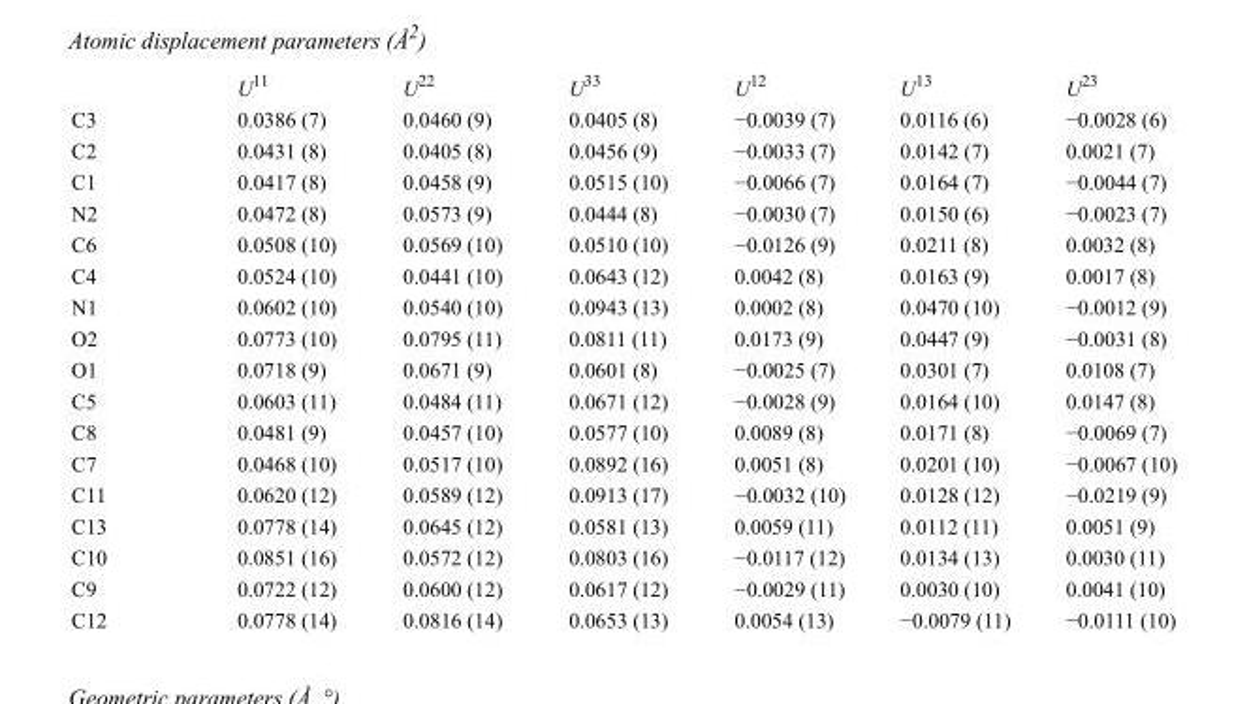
<table><thead><tr><td></td><td>U<sup>11</sup></td><td>U<sup>22</sup></td><td>U<sup>33</sup></td><td>U<sup>12</sup></td><td>U<sup>13</sup></td><td>U<sup>23</sup></td></tr></thead><tbody><tr><td>C3</td><td>0.0386 (7)</td><td>0.0460 (9)</td><td>0.0405 (8)</td><td>−0.0039 (7)</td><td>0.0116 (6)</td><td>−0.0028 (6)</td></tr><tr><td>C2</td><td>0.0431 (8)</td><td>0.0405 (8)</td><td>0.0456 (9)</td><td>−0.0033 (7)</td><td>0.0142 (7)</td><td>0.0021 (7)</td></tr><tr><td>C1</td><td>0.0417 (8)</td><td>0.0458 (9)</td><td>0.0515 (10)</td><td>−0.0066 (7)</td><td>0.0164 (7)</td><td>−0.0044 (7)</td></tr><tr><td>N2</td><td>0.0472 (8)</td><td>0.0573 (9)</td><td>0.0444 (8)</td><td>−0.0030 (7)</td><td>0.0150 (6)</td><td>−0.0023 (7)</td></tr><tr><td>C6</td><td>0.0508 (10)</td><td>0.0569 (10)</td><td>0.0510 (10)</td><td>−0.0126 (9)</td><td>0.0211 (8)</td><td>0.0032 (8)</td></tr><tr><td>C4</td><td>0.0524 (10)</td><td>0.0441 (10)</td><td>0.0643 (12)</td><td>0.0042 (8)</td><td>0.0163 (9)</td><td>0.0017 (8)</td></tr><tr><td>N1</td><td>0.0602 (10)</td><td>0.0540 (10)</td><td>0.0943 (13)</td><td>0.0002 (8)</td><td>0.0470 (10)</td><td>−0.0012 (9)</td></tr><tr><td>O2</td><td>0.0773 (10)</td><td>0.0795 (11)</td><td>0.0811 (11)</td><td>0.0173 (9)</td><td>0.0447 (9)</td><td>−0.0031 (8)</td></tr><tr><td>O1</td><td>0.0718 (9)</td><td>0.0671 (9)</td><td>0.0601 (8)</td><td>−0.0025 (7)</td><td>0.0301 (7)</td><td>0.0108 (7)</td></tr><tr><td>C5</td><td>0.0603 (11)</td><td>0.0484 (11)</td><td>0.0671 (12)</td><td>−0.0028 (9)</td><td>0.0164 (10)</td><td>0.0147 (8)</td></tr><tr><td>C8</td><td>0.0481 (9)</td><td>0.0457 (10)</td><td>0.0577 (10)</td><td>0.0089 (8)</td><td>0.0171 (8)</td><td>−0.0069 (7)</td></tr><tr><td>C7</td><td>0.0468 (10)</td><td>0.0517 (10)</td><td>0.0892 (16)</td><td>0.0051 (8)</td><td>0.0201 (10)</td><td>−0.0067 (10)</td></tr><tr><td>C11</td><td>0.0620 (12)</td><td>0.0589 (12)</td><td>0.0913 (17)</td><td>−0.0032 (10)</td><td>0.0128 (12)</td><td>−0.0219 (9)</td></tr><tr><td>C13</td><td>0.0778 (14)</td><td>0.0645 (12)</td><td>0.0581 (13)</td><td>0.0059 (11)</td><td>0.0112 (11)</td><td>0.0051 (9)</td></tr><tr><td>C10</td><td>0.0851 (16)</td><td>0.0572 (12)</td><td>0.0803 (16)</td><td>−0.0117 (12)</td><td>0.0134 (13)</td><td>0.0030 (11)</td></tr><tr><td>C9</td><td>0.0722 (12)</td><td>0.0600 (12)</td><td>0.0617 (12)</td><td>−0.0029 (11)</td><td>0.0030 (10)</td><td>0.0041 (10)</td></tr><tr><td>C12</td><td>0.0778 (14)</td><td>0.0816 (14)</td><td>0.0653 (13)</td><td>0.0054 (13)</td><td>−0.0079 (11)</td><td>−0.0111 (10)</td></tr></tbody></table>